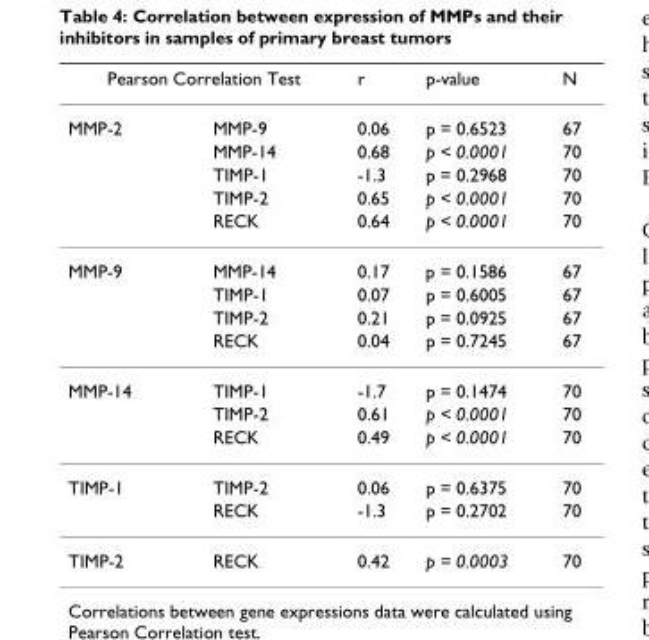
<table><thead><tr><td colspan="2">Pearson Correlation Test</td><td rowspan="2">r 0.06</td><td rowspan="2">p-value p = 0.6523</td><td rowspan="2">N 67</td></tr><tr><td>MMP-2</td><td>MMP-9</td></tr></thead><tbody><tr><td></td><td>MMP-14</td><td>0.68</td><td>p &lt; 0.0001</td><td>70</td></tr><tr><td></td><td>TIMP-1</td><td>-1.3</td><td>p = 0.2968</td><td>70</td></tr><tr><td></td><td>TIMP-2</td><td>0.65</td><td>p &lt; 0.0001</td><td>70</td></tr><tr><td></td><td>RECK</td><td>0.64</td><td>p &lt; 0.0001</td><td>70</td></tr><tr><td rowspan="4">MMP-9</td><td>MMP-14</td><td>0.17</td><td>p = 0.1586</td><td>67</td></tr><tr><td>TIMP-1</td><td>0.07</td><td>p = 0.6005</td><td>67</td></tr><tr><td>TIMP-2</td><td>0.21</td><td>p = 0.0925</td><td>67</td></tr><tr><td>RECK</td><td>0.04</td><td>p = 0.7245</td><td>67</td></tr><tr><td rowspan="3">MMP-14</td><td>TIMP-1</td><td>-1.7</td><td>p = 0.1474</td><td>70</td></tr><tr><td>TIMP-2</td><td>0.61</td><td>p &lt; 0.0001</td><td>70</td></tr><tr><td>RECK</td><td>0.49</td><td>p &lt; 0.0001</td><td>70</td></tr><tr><td rowspan="2">TIMP-1</td><td>TIMP-2</td><td>0.06</td><td>p = 0.6375</td><td>70</td></tr><tr><td>RECK</td><td>-1.3</td><td>p = 0.2702</td><td>70</td></tr><tr><td>TIMP-2</td><td>RECK</td><td>0.42</td><td>p = 0.0003</td><td>70</td></tr></tbody></table>